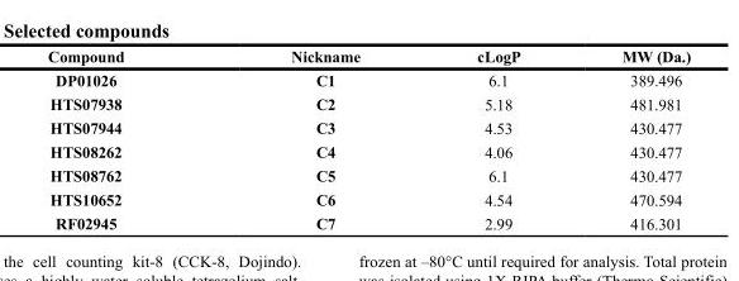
<table><thead><tr><td>Compound</td><td>Nickname</td><td>cLogP</td><td>MW (Da.)</td></tr></thead><tbody><tr><td>DP01026</td><td>C1</td><td>6.1</td><td>389.496</td></tr><tr><td>HTS07938</td><td>C2</td><td>5.18</td><td>481.981</td></tr><tr><td>HTS07944</td><td>C3</td><td>4.53</td><td>430.477</td></tr><tr><td>HTS08262</td><td>C4</td><td>4.06</td><td>430.477</td></tr><tr><td>HTS08762</td><td>C5</td><td>6.1</td><td>430.477</td></tr><tr><td>HTS10652</td><td>C6</td><td>4.54</td><td>470.594</td></tr><tr><td>RF02945</td><td>C7</td><td>2.99</td><td>416.301</td></tr></tbody></table>